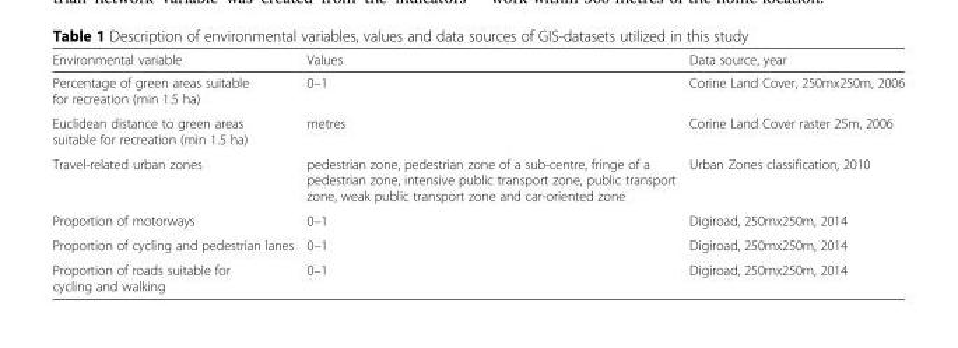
<table><thead><tr><td>Environmental variable</td><td>Values</td><td>Data source, year</td></tr></thead><tbody><tr><td>Percentage of green areas suitable for recreation (min 1.5 ha)</td><td>0–1</td><td>Corine Land Cover, 250mx250m, 2006</td></tr><tr><td>Euclidean distance to green areas suitable for recreation (min 1.5 ha)</td><td>metres</td><td>Corine Land Cover raster 25m, 2006</td></tr><tr><td>Travel-related urban zones</td><td>pedestrian zone, pedestrian zone of a sub-centre, fringe of a pedestrian zone, intensive public transport zone, public transport zone, weak public transport zone and car-oriented zone</td><td>Urban Zones classification, 2010</td></tr><tr><td>Proportion of motorways</td><td>0–1</td><td>Digiroad, 250mx250m, 2014</td></tr><tr><td>Proportion of cycling and pedestrian lanes</td><td>0–1</td><td>Digiroad, 250mx250m, 2014</td></tr><tr><td>Proportion of roads suitable for cycling and walking</td><td>0–1</td><td>Digiroad, 250mx250m, 2014</td></tr></tbody></table>